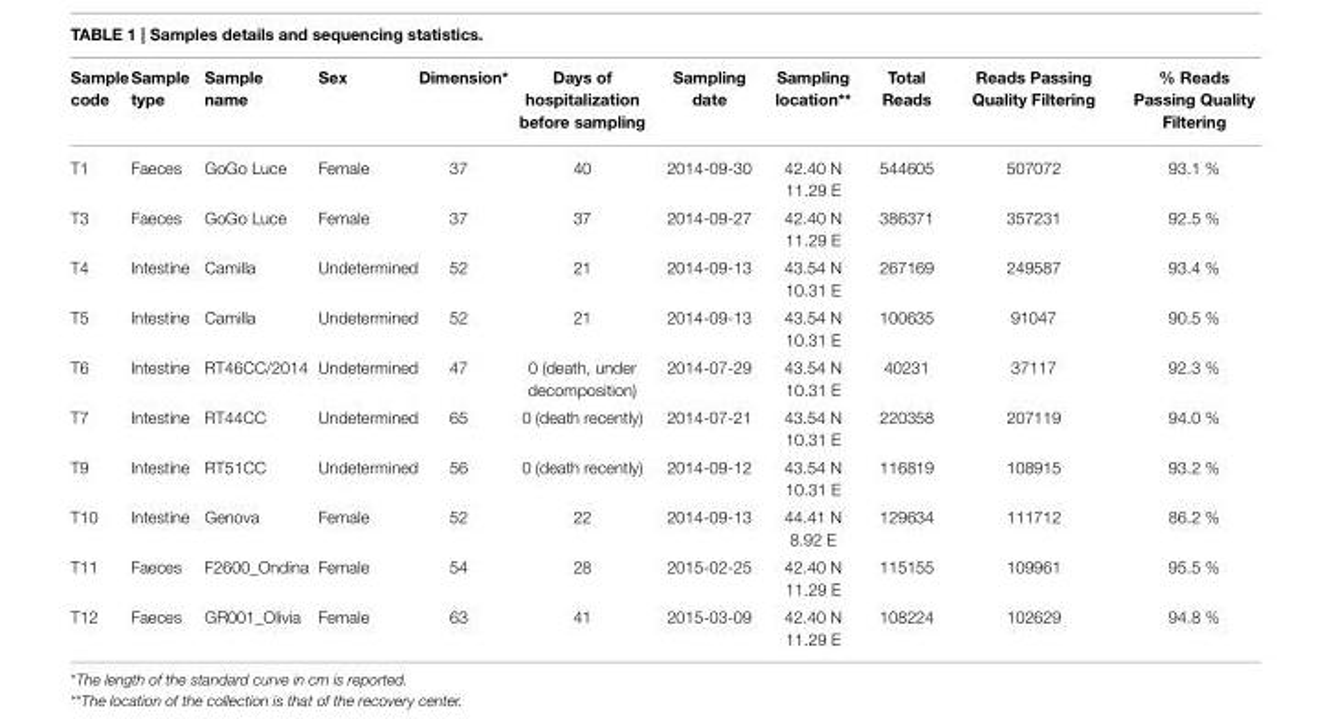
<table><thead><tr><td>Sample code</td><td>Sample type</td><td>Sample name</td><td>Sex</td><td>Dimension*</td><td>Days of hospitalization before sampling</td><td>Sampling date</td><td>Sampling location**</td><td>Total Reads</td><td>Reads Passing Quality Filtering</td><td>% Reads Passing Quality Filtering</td></tr></thead><tbody><tr><td>T1</td><td>Faeces</td><td>GoGo Luce</td><td>Female</td><td>37</td><td>40</td><td>2014-09-30</td><td>42.40 N 11.29 E</td><td>544605</td><td>507072</td><td>93.1 %</td></tr><tr><td>T3</td><td>Faeces</td><td>GoGo Luce</td><td>Female</td><td>37</td><td>37</td><td>2014-09-27</td><td>42.40 N 11.29 E</td><td>386371</td><td>357231</td><td>92.5 %</td></tr><tr><td>T4</td><td>Intestine</td><td>Camilla</td><td>Undetermined</td><td>52</td><td>21</td><td>2014-09-13</td><td>43.54 N 10.31 E</td><td>267169</td><td>249587</td><td>93.4 %</td></tr><tr><td>T5</td><td>Intestine</td><td>Camilla</td><td>Undetermined</td><td>52</td><td>21</td><td>2014-09-13</td><td>43.54 N 10.31 E</td><td>100635</td><td>91047</td><td>90.5 %</td></tr><tr><td>T6</td><td>Intestine</td><td>RT46CC/2014</td><td>Undetermined</td><td>47</td><td>0 (death, under decomposition)</td><td>2014-07-29</td><td>43.54 N 10.31 E</td><td>40231</td><td>37117</td><td>92.3 %</td></tr><tr><td>T7</td><td>Intestine</td><td>RT44CC</td><td>Undetermined</td><td>65</td><td>0 (death recently)</td><td>2014-07-21</td><td>43.54 N 10.31 E</td><td>220358</td><td>207119</td><td>94.0 %</td></tr><tr><td>T9</td><td>Intestine</td><td>RT51CC</td><td>Undetermined</td><td>56</td><td>0 (death recently)</td><td>2014-09-12</td><td>43.54 N 10.31 E</td><td>116819</td><td>108915</td><td>93.2 %</td></tr><tr><td>T10</td><td>Intestine</td><td>Genova</td><td>Female</td><td>52</td><td>22</td><td>2014-09-13</td><td>44.41 N 8.92 E</td><td>129634</td><td>111712</td><td>86.2 %</td></tr><tr><td>T11</td><td>Faeces</td><td>F2600_Ondina</td><td>Female</td><td>54</td><td>28</td><td>2015-02-25</td><td>42.40 N 11.29 E</td><td>115155</td><td>109961</td><td>95.5 %</td></tr><tr><td>T12</td><td>Faeces</td><td>GR001_Olivia</td><td>Female</td><td>63</td><td>41</td><td>2015-03-09</td><td>42.40 N 11.29 E</td><td>108224</td><td>102629</td><td>94.8 %</td></tr></tbody></table>